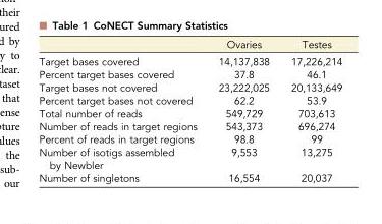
<table><thead><tr><td></td><td>Ovaries</td><td>Testes</td></tr></thead><tbody><tr><td>Target bases covered</td><td>14,137,838</td><td>17,226,214</td></tr><tr><td>Percent target bases covered</td><td>37.8</td><td>46.1</td></tr><tr><td>Target bases not covered</td><td>23,222,025</td><td>20,133,649</td></tr><tr><td>Percent target bases not covered</td><td>62.2</td><td>53.9</td></tr><tr><td>Total number of reads</td><td>549,729</td><td>703,613</td></tr><tr><td>Number of reads in target regions</td><td>543,373</td><td>696,274</td></tr><tr><td>Percent of reads in target regions</td><td>98.8</td><td>99</td></tr><tr><td>Number of isotigs assembled by Newbler</td><td>9,553</td><td>13,275</td></tr><tr><td>Number of singletons</td><td>16,554</td><td>20,037</td></tr></tbody></table>